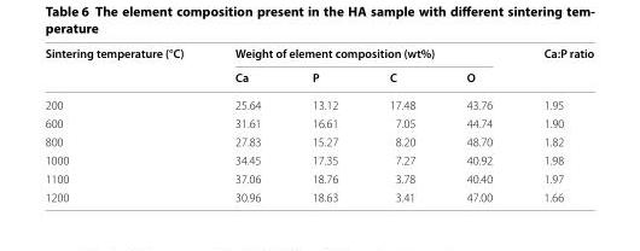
<table><thead><tr><td rowspan="2">Sintering temperature (°C)</td><td colspan="4">Weight of element composition (wt%)</td><td rowspan="2">Ca:P ratio</td></tr><tr><td>Ca</td><td>P</td><td>C</td><td>O</td></tr></thead><tbody><tr><td>200</td><td>25.64</td><td>13.12</td><td>17.48</td><td>43.76</td><td>1.95</td></tr><tr><td>600</td><td>31.61</td><td>16.61</td><td>7.05</td><td>44.74</td><td>1.90</td></tr><tr><td>800</td><td>27.83</td><td>15.27</td><td>8.20</td><td>48.70</td><td>1.82</td></tr><tr><td>1000</td><td>34.45</td><td>17.35</td><td>7.27</td><td>40.92</td><td>1.98</td></tr><tr><td>1100</td><td>37.06</td><td>18.76</td><td>3.78</td><td>40.40</td><td>1.97</td></tr><tr><td>1200</td><td>30.96</td><td>18.63</td><td>3.41</td><td>47.00</td><td>1.66</td></tr></tbody></table>